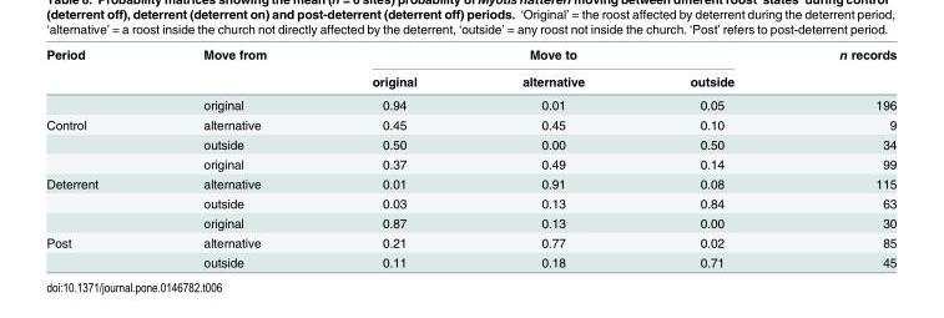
<table><thead><tr><td rowspan="2">Period</td><td rowspan="2">Move from</td><td colspan="3">Move to</td><td rowspan="2">n records</td></tr><tr><td>original</td><td>alternative</td><td>outside</td></tr></thead><tbody><tr><td></td><td>original</td><td>0.94</td><td>0.01</td><td>0.05</td><td>196</td></tr><tr><td rowspan="3">Control</td><td>alternative</td><td>0.45</td><td>0.45</td><td>0.10</td><td>9</td></tr><tr><td>outside</td><td>0.50</td><td>0.00</td><td>0.50</td><td>34</td></tr><tr><td>original</td><td>0.37</td><td>0.49</td><td>0.14</td><td>99</td></tr><tr><td rowspan="3">Deterrent</td><td>alternative</td><td>0.01</td><td>0.91</td><td>0.08</td><td>115</td></tr><tr><td>outside</td><td>0.03</td><td>0.13</td><td>0.84</td><td>63</td></tr><tr><td>original</td><td>0.87</td><td>0.13</td><td>0.00</td><td>30</td></tr><tr><td rowspan="2">Post</td><td>alternative</td><td>0.21</td><td>0.77</td><td>0.02</td><td>85</td></tr><tr><td>outside</td><td>0.11</td><td>0.18</td><td>0.71</td><td>45</td></tr></tbody></table>